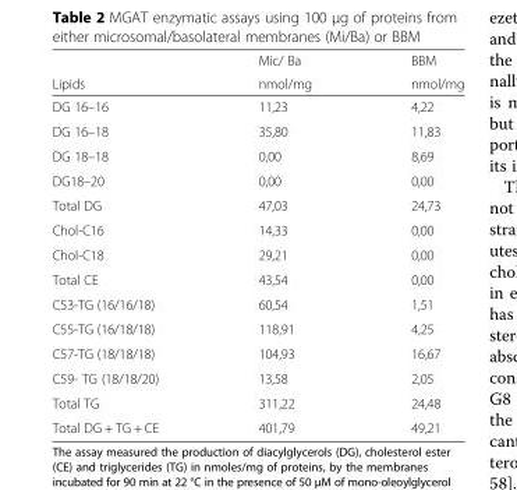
<table><thead><tr><td rowspan="2">Lipids</td><td rowspan="2">Mic/ Ba nmol/mg</td><td rowspan="2">BBM nmol/mg</td></tr><tr></tr></thead><tbody><tr><td>DG 16–16</td><td>11,23</td><td>4,22</td></tr><tr><td>DG 16–18</td><td>35,80</td><td>11,83</td></tr><tr><td>DG 18–18</td><td>0,00</td><td>8,69</td></tr><tr><td>DG18–20</td><td>0,00</td><td>0,00</td></tr><tr><td>Total DG</td><td>47,03</td><td>24,73</td></tr><tr><td>Chol-C16</td><td>14,33</td><td>0,00</td></tr><tr><td>Chol-C18</td><td>29,21</td><td>0,00</td></tr><tr><td>Total CE</td><td>43,54</td><td>0,00</td></tr><tr><td>C53-TG (16/16/18)</td><td>60,54</td><td>1,51</td></tr><tr><td>C55-TG (16/18/18)</td><td>118,91</td><td>4,25</td></tr><tr><td>C57-TG (18/18/18)</td><td>104,93</td><td>16,67</td></tr><tr><td>C59- TG (18/18/20)</td><td>13,58</td><td>2,05</td></tr><tr><td>Total TG</td><td>311,22</td><td>24,48</td></tr><tr><td>Total DG + TG + CE</td><td>401,79</td><td>49,21</td></tr></tbody></table>